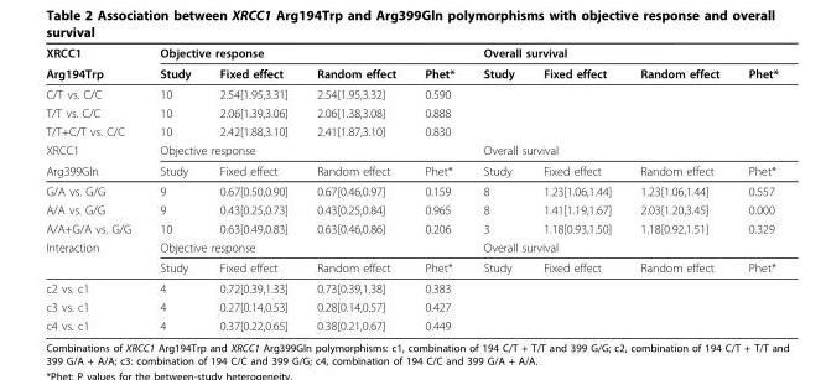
<table><thead><tr><td rowspan="2">XRCC1 Arg194Trp</td><td colspan="4">Objective response</td><td colspan="4">Overall survival</td></tr><tr><td>Study</td><td>Fixed effect</td><td>Random effect</td><td>Phet*</td><td>Study</td><td>Fixed effect</td><td>Random effect</td><td>Phet*</td></tr></thead><tbody><tr><td>C/T vs. C/C</td><td>10</td><td>2.54[1.95,3.31]</td><td>2.54[1.95,3.32]</td><td>0.590</td><td></td><td></td><td></td><td></td></tr><tr><td>T/T vs. C/C</td><td>10</td><td>2.06[1.39,3.06]</td><td>2.06[1.38,3.08]</td><td>0.888</td><td></td><td></td><td></td><td></td></tr><tr><td>T/T+C/T vs. C/C</td><td>10</td><td>2.42[1.88,3.10]</td><td>2.41[1.87,3.10]</td><td>0.830</td><td></td><td></td><td></td><td></td></tr><tr><td>XRCC1</td><td colspan="4">Objective response</td><td colspan="4">Overall survival</td></tr><tr><td>Arg399Gln</td><td>Study</td><td>Fixed effect</td><td>Random effect</td><td>Phet*</td><td>Study</td><td>Fixed effect</td><td>Random effect</td><td>Phet*</td></tr><tr><td>G/A vs. G/G</td><td>9</td><td>0.67[0.50,0.90]</td><td>0.67[0.46,0.97]</td><td>0.159</td><td>8</td><td>1.23[1.06,1.44]</td><td>1.23[1.06,1.44]</td><td>0.557</td></tr><tr><td>A/A vs. G/G</td><td>9</td><td>0.43[0.25,0.73]</td><td>0.43[0.25,0.84]</td><td>0.965</td><td>8</td><td>1.41[1.19,1.67]</td><td>2.03[1.20,3.45]</td><td>0.000</td></tr><tr><td>A/A+G/A vs. G/G</td><td>10</td><td>0.63[0.49,0.83]</td><td>0.63[0.46,0.86]</td><td>0.206</td><td>3</td><td>1.18[0.93,1.50]</td><td>1.18[0.92,1.51]</td><td>0.329</td></tr><tr><td rowspan="2">Interaction</td><td colspan="4">Objective response</td><td colspan="4">Overall survival</td></tr><tr><td>Study</td><td>Fixed effect</td><td>Random effect</td><td>Phet*</td><td>Study</td><td>Fixed effect</td><td>Random effect</td><td>Phet*</td></tr><tr><td>c2 vs. c1</td><td>4</td><td>0.72[0.39,1.33]</td><td>0.73[0.39,1.38]</td><td>0.383</td><td></td><td></td><td></td><td></td></tr><tr><td>c3 vs. c1</td><td>4</td><td>0.27[0.14,0.53]</td><td>0.28[0.14,0.57]</td><td>0.427</td><td></td><td></td><td></td><td></td></tr><tr><td>c4 vs. c1</td><td>4</td><td>0.37[0.22,0.65]</td><td>0.38[0.21,0.67]</td><td>0.449</td><td></td><td></td><td></td><td></td></tr></tbody></table>